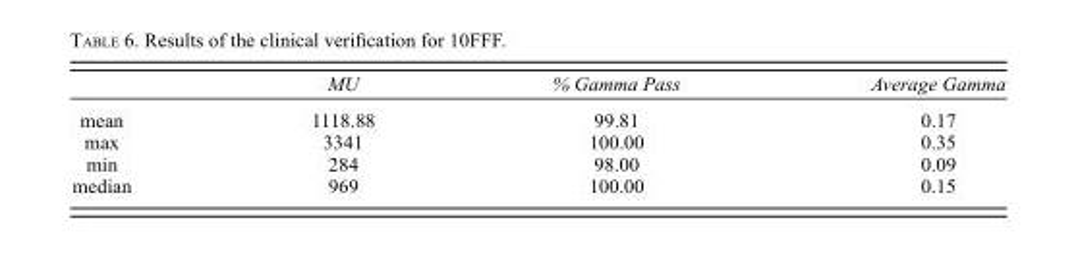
<table><thead><tr><td></td><td>MU</td><td>% Gamma Pass</td><td>Average Gamma</td></tr></thead><tbody><tr><td>mean</td><td>1118.88</td><td>99.81</td><td>0.17</td></tr><tr><td>max</td><td>3341</td><td>100.00</td><td>0.35</td></tr><tr><td>min</td><td>284</td><td>98.00</td><td>0.09</td></tr><tr><td>median</td><td>969</td><td>100.00</td><td>0.15</td></tr></tbody></table>